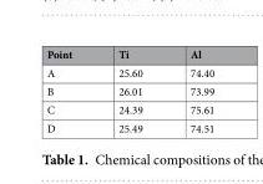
<table><thead><tr><td>Point</td><td>Ti</td><td>Al</td></tr></thead><tbody><tr><td>A</td><td>25.60</td><td>74.40</td></tr><tr><td>B</td><td>26.01</td><td>73.99</td></tr><tr><td>C</td><td>24.39</td><td>75.61</td></tr><tr><td>D</td><td>25.49</td><td>74.51</td></tr></tbody></table>